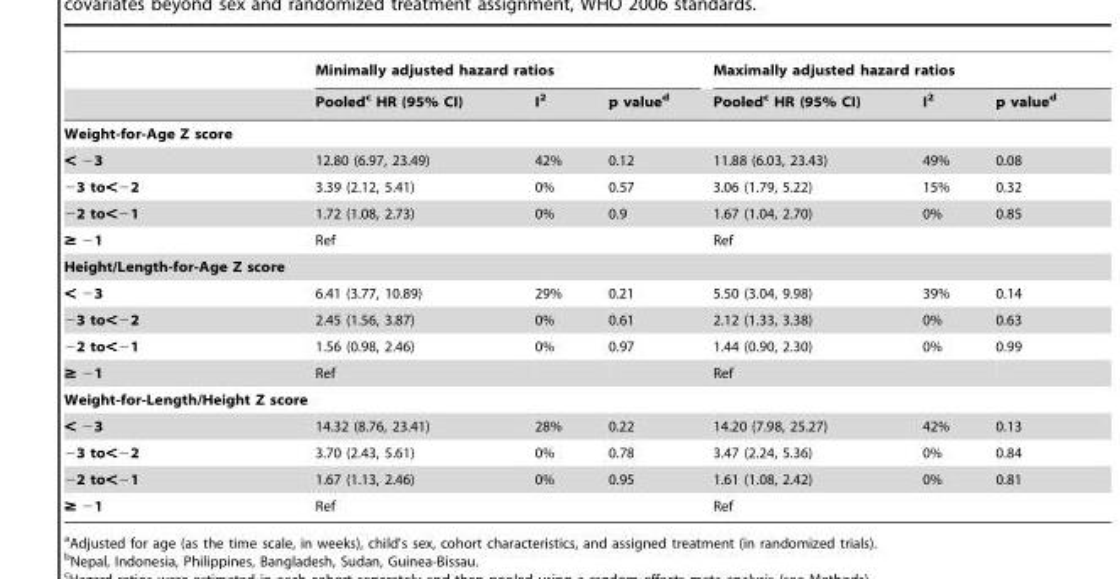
<table><thead><tr><td rowspan="2"></td><td colspan="3">Minimally adjusted hazard ratios</td><td colspan="3">Maximally adjusted hazard ratios</td></tr><tr><td>Pooled<sup>c</sup> HR (95% CI)</td><td>I<sup>2</sup></td><td>p value<sup>d</sup></td><td>Pooled<sup>c</sup> HR (95% CI)</td><td>I<sup>2</sup></td><td>p value<sup>d</sup></td></tr></thead><tbody><tr><td colspan="7">Weight-for-Age Z score</td></tr><tr><td>&lt; −3</td><td>12.80 (6.97, 23.49)</td><td>42%</td><td>0.12</td><td>11.88 (6.03, 23.43)</td><td>49%</td><td>0.08</td></tr><tr><td>−3 to&lt;−2</td><td>3.39 (2.12, 5.41)</td><td>0%</td><td>0.57</td><td>3.06 (1.79, 5.22)</td><td>15%</td><td>0.32</td></tr><tr><td>−2 to&lt;−1</td><td>1.72 (1.08, 2.73)</td><td>0%</td><td>0.9</td><td>1.67 (1.04, 2.70)</td><td>0%</td><td>0.85</td></tr><tr><td>≥ −1</td><td>Ref</td><td></td><td></td><td>Ref</td><td></td><td></td></tr><tr><td colspan="7">Height/Length-for-Age Z score</td></tr><tr><td>&lt; −3</td><td>6.41 (3.77, 10.89)</td><td>29%</td><td>0.21</td><td>5.50 (3.04, 9.98)</td><td>39%</td><td>0.14</td></tr><tr><td>−3 to&lt;−2</td><td>2.45 (1.56, 3.87)</td><td>0%</td><td>0.61</td><td>2.12 (1.33, 3.38)</td><td>0%</td><td>0.63</td></tr><tr><td>−2 to&lt;−1</td><td>1.56 (0.98, 2.46)</td><td>0%</td><td>0.97</td><td>1.44 (0.90, 2.30)</td><td>0%</td><td>0.99</td></tr><tr><td>≥ −1</td><td>Ref</td><td></td><td></td><td>Ref</td><td></td><td></td></tr><tr><td colspan="7">Weight-for-Length/Height Z score</td></tr><tr><td>&lt; −3</td><td>14.32 (8.76, 23.41)</td><td>28%</td><td>0.22</td><td>14.20 (7.98, 25.27)</td><td>42%</td><td>0.13</td></tr><tr><td>−3 to&lt;−2</td><td>3.70 (2.43, 5.61)</td><td>0%</td><td>0.78</td><td>3.47 (2.24, 5.36)</td><td>0%</td><td>0.84</td></tr><tr><td>−2 to&lt;−1</td><td>1.67 (1.13, 2.46)</td><td>0%</td><td>0.95</td><td>1.61 (1.08, 2.42)</td><td>0%</td><td>0.81</td></tr><tr><td>≥ −1</td><td>Ref</td><td></td><td></td><td>Ref</td><td></td><td></td></tr></tbody></table>